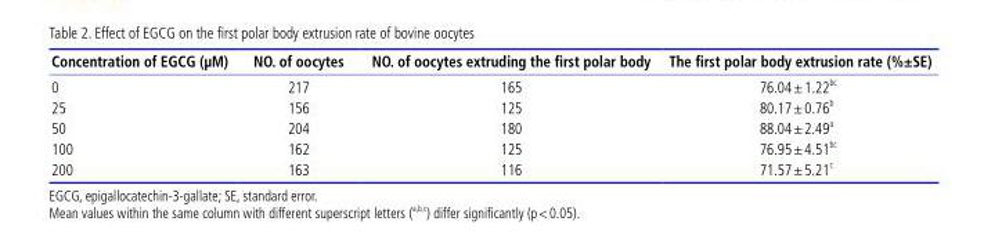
<table><thead><tr><td>Concentration of EGCG (μM)</td><td>NO. of oocytes</td><td>NO. of oocytes extruding the first polar body</td><td>The first polar body extrusion rate (%±SE)</td></tr></thead><tbody><tr><td>0</td><td>217</td><td>165</td><td>76.04±1.22 <sup>bc</sup></td></tr><tr><td>25</td><td>156</td><td>125</td><td>80.17±0.76 <sup>b</sup></td></tr><tr><td>50</td><td>204</td><td>180</td><td>88.04±2.49 <sup>a</sup></td></tr><tr><td>100</td><td>162</td><td>125</td><td>76.95±4.51 <sup>bc</sup></td></tr><tr><td>200</td><td>163</td><td>116</td><td>71.57±5.21 <sup>c</sup></td></tr></tbody></table>